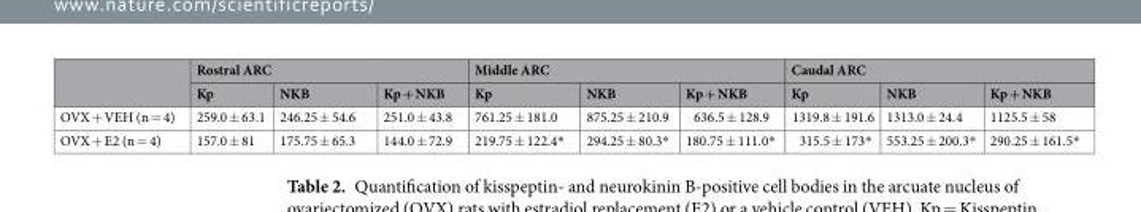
<table><thead><tr><td rowspan="2"></td><td colspan="3">Rostral ARC</td><td colspan="3">Middle ARC</td><td colspan="3">Caudal ARC</td></tr><tr><td>Kp</td><td>NKB</td><td>Kp + NKB</td><td>Kp</td><td>NKB</td><td>Kp + NKB</td><td>Kp</td><td>NKB</td><td>Kp + NKB</td></tr></thead><tbody><tr><td>OVX + VEH (n = 4)</td><td>259.0 ± 63.1</td><td>246.25 ± 54.6</td><td>251.0 ± 43.8</td><td>761.25 ± 181.0</td><td>875.25 ± 210.9</td><td>636.5 ± 128.9</td><td>1319.8 ± 191.6</td><td>1313.0 ± 24.4</td><td>1125.5 ± 58</td></tr><tr><td>OVX + E2 (n = 4)</td><td>157.0 ± 81</td><td>175.75 ± 65.3</td><td>144.0 ± 72.9</td><td>219.75 ± 122.4*</td><td>294.25 ± 80.3*</td><td>180.75 ± 111.0*</td><td>315.5 ± 173*</td><td>553.25 ± 200.3*</td><td>290.25 ± 161.5*</td></tr></tbody></table>